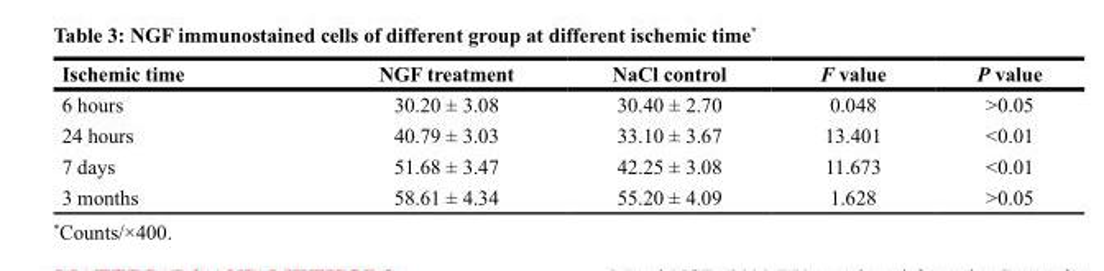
<table><thead><tr><td>Ischemic time</td><td>NGF treatment</td><td>NaCl control</td><td>F value</td><td>P value</td></tr></thead><tbody><tr><td>6 hours</td><td>30.20 ± 3.08</td><td>30.40 ± 2.70</td><td>0.048</td><td>&gt;0.05</td></tr><tr><td>24 hours</td><td>40.79 ± 3.03</td><td>33.10 ± 3.67</td><td>13.401</td><td>&lt;0.01</td></tr><tr><td>7 days</td><td>51.68 ± 3.47</td><td>42.25 ± 3.08</td><td>11.673</td><td>&lt;0.01</td></tr><tr><td>3 months</td><td>58.61 ± 4.34</td><td>55.20 ± 4.09</td><td>1.628</td><td>&gt;0.05</td></tr></tbody></table>